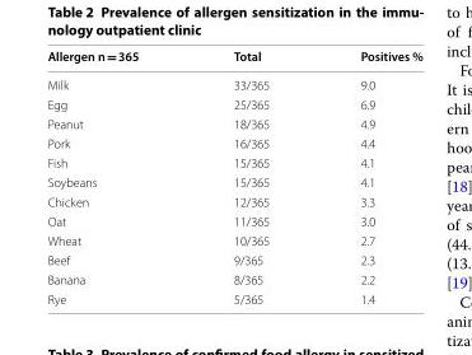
<table><thead><tr><td>Allergen n = 365</td><td>Total</td><td>Positives %</td></tr></thead><tbody><tr><td>Milk</td><td>33/365</td><td>9.0</td></tr><tr><td>Egg</td><td>25/365</td><td>6.9</td></tr><tr><td>Peanut</td><td>18/365</td><td>4.9</td></tr><tr><td>Pork</td><td>16/365</td><td>4.4</td></tr><tr><td>Fish</td><td>15/365</td><td>4.1</td></tr><tr><td>Soybeans</td><td>15/365</td><td>4.1</td></tr><tr><td>Chicken</td><td>12/365</td><td>3.3</td></tr><tr><td>Oat</td><td>11/365</td><td>3.0</td></tr><tr><td>Wheat</td><td>10/365</td><td>2.7</td></tr><tr><td>Beef</td><td>9/365</td><td>2.3</td></tr><tr><td>Banana</td><td>8/365</td><td>2.2</td></tr><tr><td>Rye</td><td>5/365</td><td>1.4</td></tr></tbody></table>